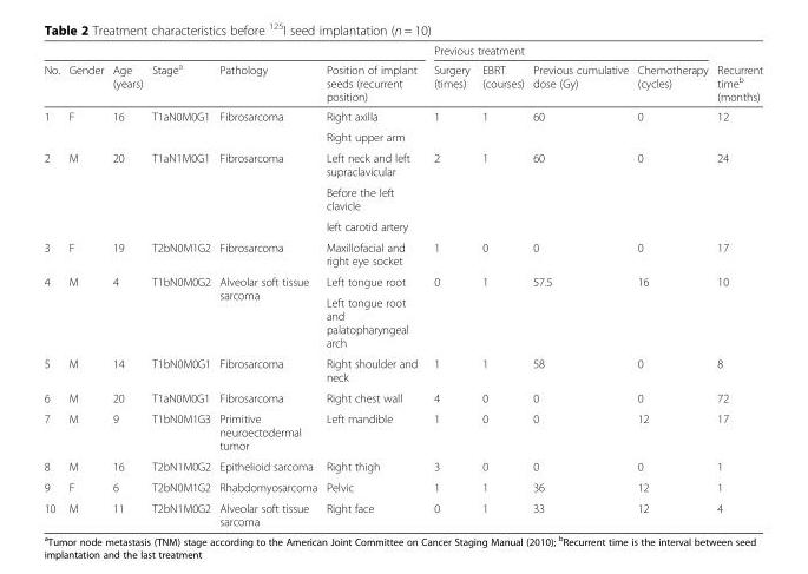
<table><thead><tr><td rowspan="2">No.</td><td rowspan="2">Gender</td><td rowspan="2">Age (years)</td><td rowspan="2">Stage<sup>a</sup></td><td rowspan="2">Pathology</td><td rowspan="2">Position of implant seeds (recurrent position)</td><td colspan="4">Previous treatment</td><td rowspan="2">Recurrent time<sup>b</sup> (months)</td></tr><tr><td>Surgery (times)</td><td>EBRT (courses)</td><td>Previous cumulative dose (Gy)</td><td>Chemotherapy (cycles)</td></tr></thead><tbody><tr><td rowspan="2">1</td><td rowspan="2">F</td><td rowspan="2">16</td><td rowspan="2">T1aN0M0G1</td><td rowspan="2">Fibrosarcoma</td><td>Right axilla</td><td rowspan="2">1</td><td rowspan="2">1</td><td rowspan="2">60</td><td rowspan="2">0</td><td rowspan="2">12</td></tr><tr><td>Right upper arm</td></tr><tr><td rowspan="3">2</td><td rowspan="3">M</td><td rowspan="3">20</td><td rowspan="3">T1aN1M0G1</td><td rowspan="3">Fibrosarcoma</td><td>Left neck and left supraclavicular</td><td rowspan="3">2</td><td rowspan="3">1</td><td rowspan="3">60</td><td rowspan="3">0</td><td rowspan="3">24</td></tr><tr><td>Before the left clavicle</td></tr><tr><td>left carotid artery</td></tr><tr><td>3</td><td>F</td><td>19</td><td>T2bN0M1G2</td><td>Fibrosarcoma</td><td>Maxillofacial and right eye socket</td><td>1</td><td>0</td><td>0</td><td>0</td><td>17</td></tr><tr><td rowspan="2">4</td><td rowspan="2">M</td><td rowspan="2">4</td><td rowspan="2">T1bN0M0G2</td><td rowspan="2">Alveolar soft tissue sarcoma</td><td>Left tongue root</td><td rowspan="2">0</td><td rowspan="2">1</td><td rowspan="2">57.5</td><td rowspan="2">16</td><td rowspan="2">10</td></tr><tr><td>Left tongue root and palatopharyngeal arch</td></tr><tr><td>5</td><td>M</td><td>14</td><td>T1bN0M0G1</td><td>Fibrosarcoma</td><td>Right shoulder and neck</td><td>1</td><td>1</td><td>58</td><td>0</td><td>8</td></tr><tr><td>6</td><td>M</td><td>20</td><td>T1aN0M0G1</td><td>Fibrosarcoma</td><td>Right chest wall</td><td>4</td><td>0</td><td>0</td><td>0</td><td>72</td></tr><tr><td>7</td><td>M</td><td>9</td><td>T1bN0M1G3</td><td>Primitive neuroectodermal tumor</td><td>Left mandible</td><td>1</td><td>0</td><td>0</td><td>12</td><td>17</td></tr><tr><td>8</td><td>M</td><td>16</td><td>T2bN1M0G2</td><td>Epithelioid sarcoma</td><td>Right thigh</td><td>3</td><td>0</td><td>0</td><td>0</td><td>1</td></tr><tr><td>9</td><td>F</td><td>6</td><td>T2bN0M1G2</td><td>Rhabdomyosarcoma</td><td>Pelvic</td><td>1</td><td>1</td><td>36</td><td>12</td><td>1</td></tr><tr><td>10</td><td>M</td><td>11</td><td>T2bN1M0G2</td><td>Alveolar soft tissue sarcoma</td><td>Right face</td><td>0</td><td>1</td><td>33</td><td>12</td><td>4</td></tr></tbody></table>